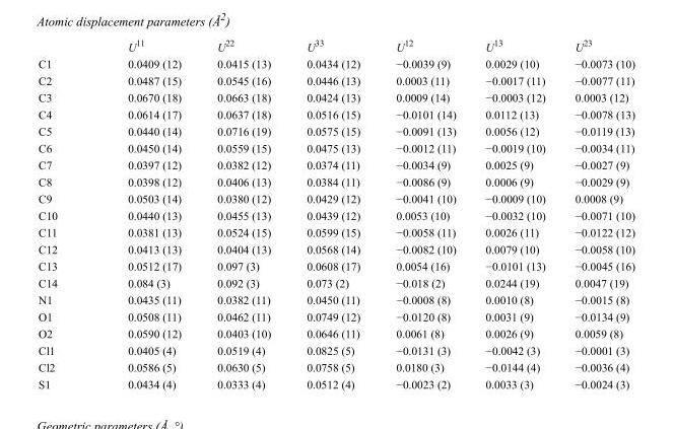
<table><thead><tr><td></td><td>U<sup>11</sup></td><td>U<sup>22</sup></td><td>U<sup>33</sup></td><td>U<sup>12</sup></td><td>U<sup>13</sup></td><td>U<sup>23</sup></td></tr></thead><tbody><tr><td>C1</td><td>0.0409 (12)</td><td>0.0415 (13)</td><td>0.0434 (12)</td><td>−0.0039 (9)</td><td>0.0029 (10)</td><td>−0.0073 (10)</td></tr><tr><td>C2</td><td>0.0487 (15)</td><td>0.0545 (16)</td><td>0.0446 (13)</td><td>0.0003 (11)</td><td>−0.0017 (11)</td><td>−0.0077 (11)</td></tr><tr><td>C3</td><td>0.0670 (18)</td><td>0.0663 (18)</td><td>0.0424 (13)</td><td>0.0009 (14)</td><td>−0.0003 (12)</td><td>0.0003 (12)</td></tr><tr><td>C4</td><td>0.0614 (17)</td><td>0.0637 (18)</td><td>0.0516 (15)</td><td>−0.0101 (14)</td><td>0.0112 (13)</td><td>−0.0078 (13)</td></tr><tr><td>C5</td><td>0.0440 (14)</td><td>0.0716 (19)</td><td>0.0575 (15)</td><td>−0.0091 (13)</td><td>0.0056 (12)</td><td>−0.0119 (13)</td></tr><tr><td>C6</td><td>0.0450 (14)</td><td>0.0559 (15)</td><td>0.0475 (13)</td><td>−0.0012 (11)</td><td>−0.0019 (10)</td><td>−0.0034 (11)</td></tr><tr><td>C7</td><td>0.0397 (12)</td><td>0.0382 (12)</td><td>0.0374 (11)</td><td>−0.0034 (9)</td><td>0.0025 (9)</td><td>−0.0027 (9)</td></tr><tr><td>C8</td><td>0.0398 (12)</td><td>0.0406 (13)</td><td>0.0384 (11)</td><td>−0.0086 (9)</td><td>0.0006 (9)</td><td>−0.0029 (9)</td></tr><tr><td>C9</td><td>0.0503 (14)</td><td>0.0380 (12)</td><td>0.0429 (12)</td><td>−0.0041 (10)</td><td>−0.0009 (10)</td><td>0.0008 (9)</td></tr><tr><td>C10</td><td>0.0440 (13)</td><td>0.0455 (13)</td><td>0.0439 (12)</td><td>0.0053 (10)</td><td>−0.0032 (10)</td><td>−0.0071 (10)</td></tr><tr><td>C11</td><td>0.0381 (13)</td><td>0.0524 (15)</td><td>0.0599 (15)</td><td>−0.0058 (11)</td><td>0.0026 (11)</td><td>−0.0122 (12)</td></tr><tr><td>C12</td><td>0.0413 (13)</td><td>0.0404 (13)</td><td>0.0568 (14)</td><td>−0.0082 (10)</td><td>0.0079 (10)</td><td>−0.0058 (10)</td></tr><tr><td>C13</td><td>0.0512 (17)</td><td>0.097 (3)</td><td>0.0608 (17)</td><td>0.0054 (16)</td><td>−0.0101 (13)</td><td>−0.0045 (16)</td></tr><tr><td>C14</td><td>0.084 (3)</td><td>0.092 (3)</td><td>0.073 (2)</td><td>−0.018 (2)</td><td>0.0244 (19)</td><td>0.0047 (19)</td></tr><tr><td>N1</td><td>0.0435 (11)</td><td>0.0382 (11)</td><td>0.0450 (11)</td><td>−0.0008 (8)</td><td>0.0010 (8)</td><td>−0.0015 (8)</td></tr><tr><td>O1</td><td>0.0508 (11)</td><td>0.0462 (11)</td><td>0.0749 (12)</td><td>−0.0120 (8)</td><td>0.0031 (9)</td><td>−0.0134 (9)</td></tr><tr><td>O2</td><td>0.0590 (12)</td><td>0.0403 (10)</td><td>0.0646 (11)</td><td>0.0061 (8)</td><td>0.0026 (9)</td><td>0.0059 (8)</td></tr><tr><td>Cl1</td><td>0.0405 (4)</td><td>0.0519 (4)</td><td>0.0825 (5)</td><td>−0.0131 (3)</td><td>−0.0042 (3)</td><td>−0.0001 (3)</td></tr><tr><td>Cl2</td><td>0.0586 (5)</td><td>0.0630 (5)</td><td>0.0758 (5)</td><td>0.0180 (3)</td><td>−0.0144 (4)</td><td>−0.0036 (4)</td></tr><tr><td>S1</td><td>0.0434 (4)</td><td>0.0333 (4)</td><td>0.0512 (4)</td><td>−0.0023 (2)</td><td>0.0033 (3)</td><td>−0.0024 (3)</td></tr></tbody></table>